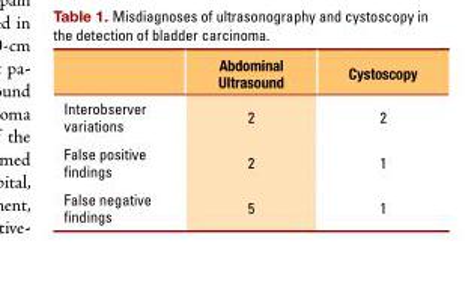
<table><thead><tr><td></td><td>Abdominal Ultrasound</td><td>Cystoscopy</td></tr></thead><tbody><tr><td>Interobserver variations</td><td>2</td><td>2</td></tr><tr><td>False positive findings</td><td>2</td><td>1</td></tr><tr><td>False negative findings</td><td>5</td><td>1</td></tr></tbody></table>